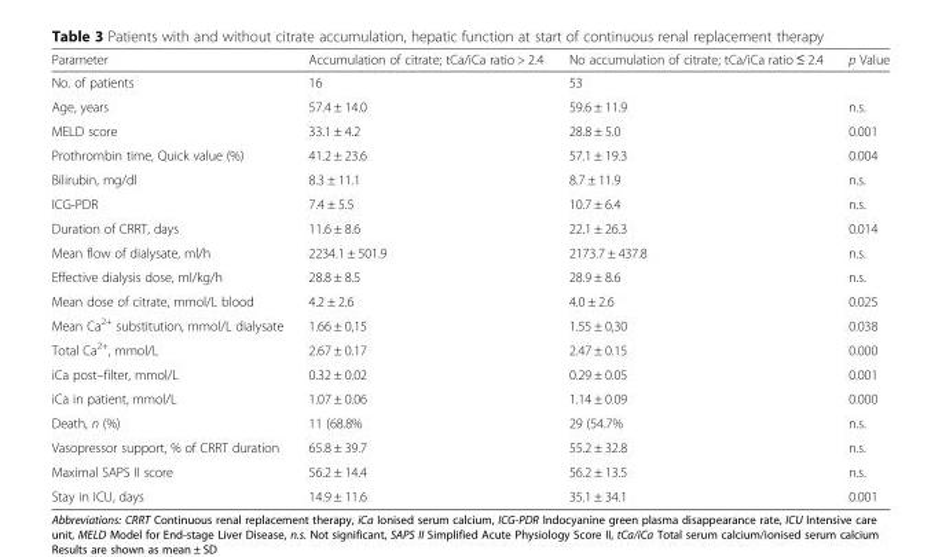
<table><thead><tr><td>Parameter</td><td>Accumulation of citrate; tCa/iCa ratio &gt; 2.4</td><td>No accumulation of citrate; tCa/iCa ratio ≤ 2.4</td><td>p Value</td></tr></thead><tbody><tr><td>No. of patients</td><td>16</td><td>53</td><td></td></tr><tr><td>Age, years</td><td>57.4 ± 14.0</td><td>59.6 ± 11.9</td><td>n.s.</td></tr><tr><td>MELD score</td><td>33.1 ± 4.2</td><td>28.8 ± 5.0</td><td>0.001</td></tr><tr><td>Prothrombin time, Quick value (%)</td><td>41.2 ± 23.6</td><td>57.1 ± 19.3</td><td>0.004</td></tr><tr><td>Bilirubin, mg/dl</td><td>8.3 ± 11.1</td><td>8.7 ± 11.9</td><td>n.s.</td></tr><tr><td>ICG-PDR</td><td>7.4 ± 5.5</td><td>10.7 ± 6.4</td><td>n.s.</td></tr><tr><td>Duration of CRRT, days</td><td>11.6 ± 8.6</td><td>22.1 ± 26.3</td><td>0.014</td></tr><tr><td>Mean flow of dialysate, ml/h</td><td>2234.1 ± 501.9</td><td>2173.7 ± 437.8</td><td>n.s.</td></tr><tr><td>Effective dialysis dose, ml/kg/h</td><td>28.8 ± 8.5</td><td>28.9 ± 8.6</td><td>n.s.</td></tr><tr><td>Mean dose of citrate, mmol/L blood</td><td>4.2 ± 2.6</td><td>4.0 ± 2.6</td><td>0.025</td></tr><tr><td>Mean Ca<sup>2+</sup> substitution, mmol/L dialysate</td><td>1.66 ± 0,15</td><td>1.55 ± 0,30</td><td>0.038</td></tr><tr><td>Total Ca<sup>2+</sup>, mmol/L</td><td>2.67 ± 0.17</td><td>2.47 ± 0.15</td><td>0.000</td></tr><tr><td>iCa post–filter, mmol/L</td><td>0.32 ± 0.02</td><td>0.29 ± 0.05</td><td>0.001</td></tr><tr><td>iCa in patient, mmol/L</td><td>1.07 ± 0.06</td><td>1.14 ± 0.09</td><td>0.000</td></tr><tr><td>Death, n (%)</td><td>11 (68.8%</td><td>29 (54.7%</td><td>n.s.</td></tr><tr><td>Vasopressor support, % of CRRT duration</td><td>65.8 ± 39.7</td><td>55.2 ± 32.8</td><td>n.s.</td></tr><tr><td>Maximal SAPS II score</td><td>56.2 ± 14.4</td><td>56.2 ± 13.5</td><td>n.s.</td></tr><tr><td>Stay in ICU, days</td><td>14.9 ± 11.6</td><td>35.1 ± 34.1</td><td>0.001</td></tr></tbody></table>